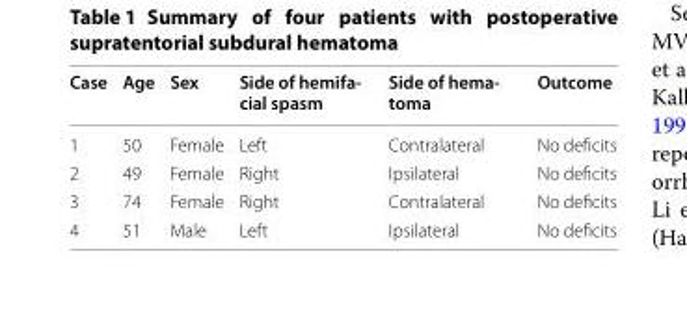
<table><thead><tr><td>Case</td><td>Age</td><td>Sex</td><td>Side of hemifa- cial spasm</td><td>Side of hema- toma</td><td>Outcome</td></tr></thead><tbody><tr><td>1</td><td>50</td><td>Female</td><td>Left</td><td>Contralateral</td><td>No deficits</td></tr><tr><td>2</td><td>49</td><td>Female</td><td>Right</td><td>Ipsilateral</td><td>No deficits</td></tr><tr><td>3</td><td>74</td><td>Female</td><td>Right</td><td>Contralateral</td><td>No deficits</td></tr><tr><td>4</td><td>51</td><td>Male</td><td>Left</td><td>Ipsilateral</td><td>No deficits</td></tr></tbody></table>